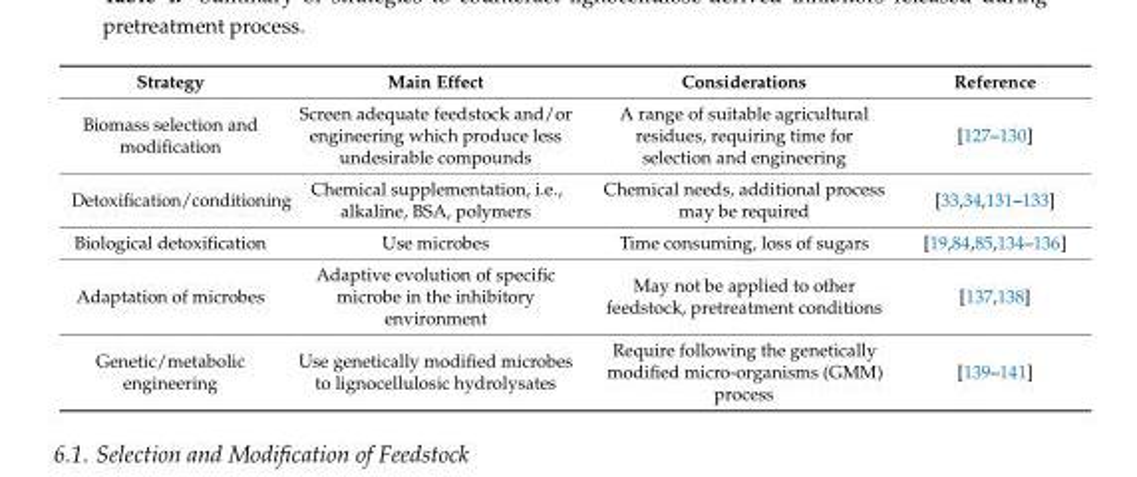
<table><thead><tr><td>Strategy</td><td>Main Effect</td><td>Considerations</td><td>Reference</td></tr></thead><tbody><tr><td>Biomass selection and modification</td><td>Screen adequate feedstock and/or engineering which produce less undesirable compounds</td><td>A range of suitable agricultural residues, requiring time for selection and engineering</td><td>[127–130]</td></tr><tr><td>Detoxification/conditioning</td><td>Chemical supplementation, i.e., alkaline, BSA, polymers</td><td>Chemical needs, additional process may be required</td><td>[33,34,131–133]</td></tr><tr><td>Biological detoxification</td><td>Use microbes</td><td>Time consuming, loss of sugars</td><td>[19,84,85,134–136]</td></tr><tr><td>Adaptation of microbes</td><td>Adaptive evolution of specific microbe in the inhibitory environment</td><td>May not be applied to other feedstock, pretreatment conditions</td><td>[137,138]</td></tr><tr><td>Genetic/metabolic engineering</td><td>Use genetically modified microbes to lignocellulosic hydrolysates</td><td>Require following the genetically modified micro-organisms (GMM) process</td><td>[139–141]</td></tr></tbody></table>